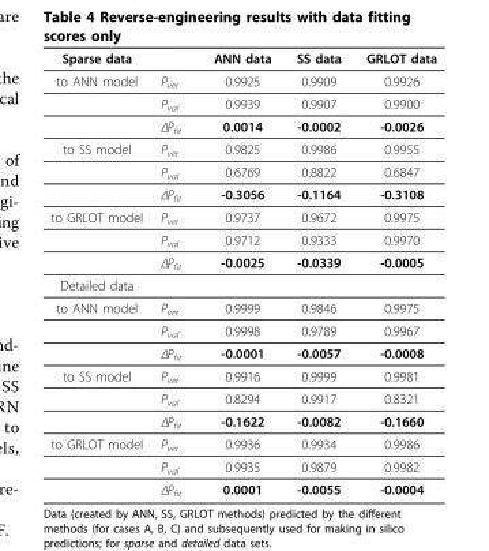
<table><thead><tr><td>Sparse data</td><td></td><td>ANN data</td><td>SS data</td><td>GRLOT data</td></tr></thead><tbody><tr><td rowspan="3">to ANN model</td><td>P<sub>ver</sub></td><td>0.9925</td><td>0.9909</td><td>0.9926</td></tr><tr><td>P<sub>val</sub></td><td>0.9939</td><td>0.9907</td><td>0.9900</td></tr><tr><td>ΔP<sub>fit</sub></td><td>0.0014</td><td>-0.0002</td><td>-0.0026</td></tr><tr><td rowspan="3">to SS model</td><td>P<sub>ver</sub></td><td>0.9825</td><td>0.9986</td><td>0.9955</td></tr><tr><td>P<sub>val</sub></td><td>0.6769</td><td>0.8822</td><td>0.6847</td></tr><tr><td>ΔP<sub>fit</sub></td><td>-0.3056</td><td>-0.1164</td><td>-0.3108</td></tr><tr><td rowspan="3">to GRLOT model</td><td>P<sub>ver</sub></td><td>0.9737</td><td>0.9672</td><td>0.9975</td></tr><tr><td>P<sub>val</sub></td><td>0.9712</td><td>0.9333</td><td>0.9970</td></tr><tr><td>ΔP<sub>fit</sub></td><td>-0.0025</td><td>-0.0339</td><td>-0.0005</td></tr><tr><td colspan="5">Detailed data</td></tr><tr><td rowspan="3">to ANN model</td><td>P<sub>ver</sub></td><td>0.9999</td><td>0.9846</td><td>0.9975</td></tr><tr><td>P<sub>val</sub></td><td>0.9998</td><td>0.9789</td><td>0.9967</td></tr><tr><td>ΔP<sub>fit</sub></td><td>-0.0001</td><td>-0.0057</td><td>-0.0008</td></tr><tr><td rowspan="3">to SS model</td><td>P<sub>ver</sub></td><td>0.9916</td><td>0.9999</td><td>0.9981</td></tr><tr><td>P<sub>val</sub></td><td>0.8294</td><td>0.9917</td><td>0.8321</td></tr><tr><td>ΔP<sub>fit</sub></td><td>-0.1622</td><td>-0.0082</td><td>-0.1660</td></tr><tr><td rowspan="3">to GRLOT model</td><td>P<sub>ver</sub></td><td>0.9936</td><td>0.9934</td><td>0.9986</td></tr><tr><td>P<sub>val</sub></td><td>0.9935</td><td>0.9879</td><td>0.9982</td></tr><tr><td>ΔP<sub>fit</sub></td><td>0.0001</td><td>-0.0055</td><td>-0.0004</td></tr></tbody></table>